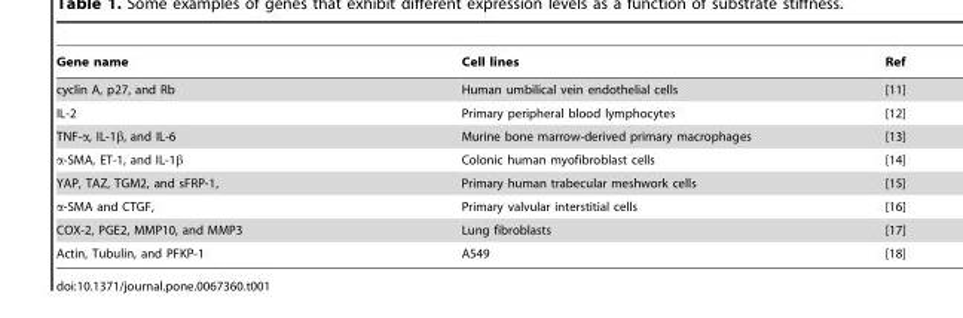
<table><thead><tr><td>Gene name</td><td>Cell lines</td><td>Ref</td></tr></thead><tbody><tr><td>cyclin A, p27, and Rb</td><td>Human umbilical vein endothelial cells</td><td>[11]</td></tr><tr><td>IL-2</td><td>Primary peripheral blood lymphocytes</td><td>[12]</td></tr><tr><td>TNF-α, IL-1β, and IL-6</td><td>Murine bone marrow-derived primary macrophages</td><td>[13]</td></tr><tr><td>α-SMA, ET-1, and IL-1β</td><td>Colonic human myofibroblast cells</td><td>[14]</td></tr><tr><td>YAP, TAZ, TGM2, and sFRP-1,</td><td>Primary human trabecular meshwork cells</td><td>[15]</td></tr><tr><td>α-SMA and CTGF,</td><td>Primary valvular interstitial cells</td><td>[16]</td></tr><tr><td>COX-2, PGE2, MMP10, and MMP3</td><td>Lung fibroblasts</td><td>[17]</td></tr><tr><td>Actin, Tubulin, and PFKP-1</td><td>A549</td><td>[18]</td></tr></tbody></table>